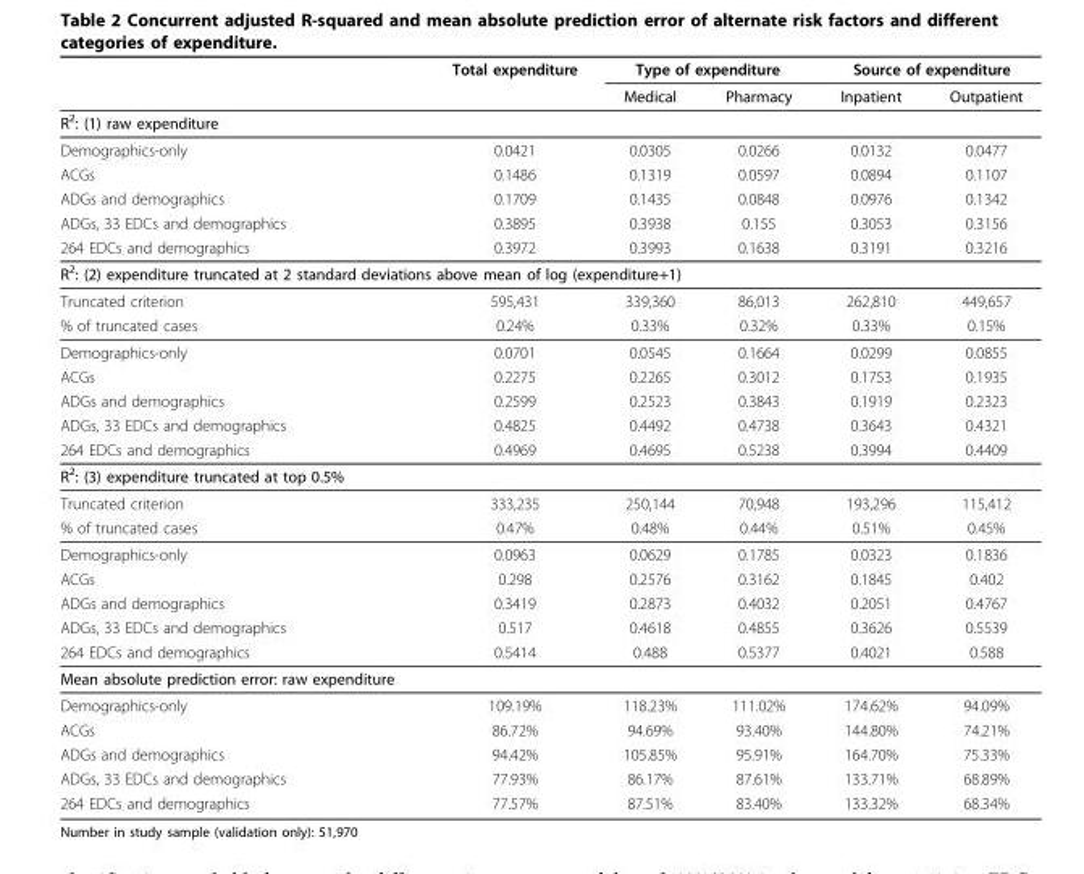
<table><thead><tr><td rowspan="2"></td><td rowspan="2">Total expenditure</td><td colspan="2">Type of expenditure</td><td colspan="2">Source of expenditure</td></tr><tr><td>Medical</td><td>Pharmacy</td><td>Inpatient</td><td>Outpatient</td></tr></thead><tbody><tr><td colspan="6">R<sup>2</sup>: (1) raw expenditure</td></tr><tr><td>Demographics-only</td><td>0.0421</td><td>0.0305</td><td>0.0266</td><td>0.0132</td><td>0.0477</td></tr><tr><td>ACGs</td><td>0.1486</td><td>0.1319</td><td>0.0597</td><td>0.0894</td><td>0.1107</td></tr><tr><td>ADGs and demographics</td><td>0.1709</td><td>0.1435</td><td>0.0848</td><td>0.0976</td><td>0.1342</td></tr><tr><td>ADGs, 33 EDCs and demographics</td><td>0.3895</td><td>0.3938</td><td>0.155</td><td>0.3053</td><td>0.3156</td></tr><tr><td>264 EDCs and demographics</td><td>0.3972</td><td>0.3993</td><td>0.1638</td><td>0.3191</td><td>0.3216</td></tr><tr><td colspan="6">R<sup>2</sup>: (2) expenditure truncated at 2 standard deviations above mean of log (expenditure+1)</td></tr><tr><td>Truncated criterion</td><td>595,431</td><td>339,360</td><td>86,013</td><td>262,810</td><td>449,657</td></tr><tr><td>% of truncated cases</td><td>0.24%</td><td>0.33%</td><td>0.32%</td><td>0.33%</td><td>0.15%</td></tr><tr><td>Demographics-only</td><td>0.0701</td><td>0.0545</td><td>0.1664</td><td>0.0299</td><td>0.0855</td></tr><tr><td>ACGs</td><td>0.2275</td><td>0.2265</td><td>0.3012</td><td>0.1753</td><td>0.1935</td></tr><tr><td>ADGs and demographics</td><td>0.2599</td><td>0.2523</td><td>0.3843</td><td>0.1919</td><td>0.2323</td></tr><tr><td>ADGs, 33 EDCs and demographics</td><td>0.4825</td><td>0.4492</td><td>0.4738</td><td>0.3643</td><td>0.4321</td></tr><tr><td>264 EDCs and demographics</td><td>0.4969</td><td>0.4695</td><td>0.5238</td><td>0.3994</td><td>0.4409</td></tr><tr><td colspan="6">R<sup>2</sup>: (3) expenditure truncated at top 0.5%</td></tr><tr><td>Truncated criterion</td><td>333,235</td><td>250,144</td><td>70,948</td><td>193,296</td><td>115,412</td></tr><tr><td>% of truncated cases</td><td>0.47%</td><td>0.48%</td><td>0.44%</td><td>0.51%</td><td>0.45%</td></tr><tr><td>Demographics-only</td><td>0.0963</td><td>0.0629</td><td>0.1785</td><td>0.0323</td><td>0.1836</td></tr><tr><td>ACGs</td><td>0.298</td><td>0.2576</td><td>0.3162</td><td>0.1845</td><td>0.402</td></tr><tr><td>ADGs and demographics</td><td>0.3419</td><td>0.2873</td><td>0.4032</td><td>0.2051</td><td>0.4767</td></tr><tr><td>ADGs, 33 EDCs and demographics</td><td>0.517</td><td>0.4618</td><td>0.4855</td><td>0.3626</td><td>0.5539</td></tr><tr><td>264 EDCs and demographics</td><td>0.5414</td><td>0.488</td><td>0.5377</td><td>0.4021</td><td>0.588</td></tr><tr><td colspan="6">Mean absolute prediction error: raw expenditure</td></tr><tr><td>Demographics-only</td><td>109.19%</td><td>118.23%</td><td>111.02%</td><td>174.62%</td><td>94.09%</td></tr><tr><td>ACGs</td><td>86.72%</td><td>94.69%</td><td>93.40%</td><td>144.80%</td><td>74.21%</td></tr><tr><td>ADGs and demographics</td><td>94.42%</td><td>105.85%</td><td>95.91%</td><td>164.70%</td><td>75.33%</td></tr><tr><td>ADGs, 33 EDCs and demographics</td><td>77.93%</td><td>86.17%</td><td>87.61%</td><td>133.71%</td><td>68.89%</td></tr><tr><td>264 EDCs and demographics</td><td>77.57%</td><td>87.51%</td><td>83.40%</td><td>133.32%</td><td>68.34%</td></tr></tbody></table>